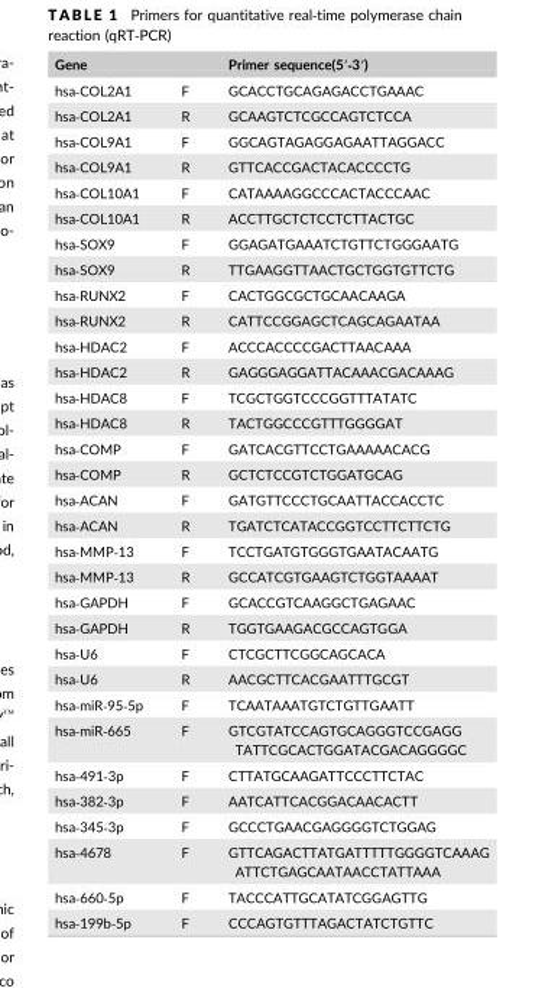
<table><thead><tr><td>Gene</td><td></td><td>Primer sequence(5′‐3′)</td></tr></thead><tbody><tr><td>hsa‐COL2A1</td><td>F</td><td>GCACCTGCAGAGACCTGAAAC</td></tr><tr><td>hsa‐COL2A1</td><td>R</td><td>GCAAGTCTCGCCAGTCTCCA</td></tr><tr><td>hsa‐COL9A1</td><td>F</td><td>GGCAGTAGAGGAGAATTAGGACC</td></tr><tr><td>hsa‐COL9A1</td><td>R</td><td>GTTCACCGACTACACCCCTG</td></tr><tr><td>hsa‐COL10A1</td><td>F</td><td>CATAAAAGGCCCACTACCCAAC</td></tr><tr><td>hsa‐COL10A1</td><td>R</td><td>ACCTTGCTCTCCTCTTACTGC</td></tr><tr><td>hsa‐SOX9</td><td>F</td><td>GGAGATGAAATCTGTTCTGGGAATG</td></tr><tr><td>hsa‐SOX9</td><td>R</td><td>TTGAAGGTTAACTGCTGGTGTTCTG</td></tr><tr><td>hsa‐RUNX2</td><td>F</td><td>CACTGGCGCTGCAACAAGA</td></tr><tr><td>hsa‐RUNX2</td><td>R</td><td>CATTCCGGAGCTCAGCAGAATAA</td></tr><tr><td>hsa‐HDAC2</td><td>F</td><td>ACCCACCCCGACTTAACAAA</td></tr><tr><td>hsa‐HDAC2</td><td>R</td><td>GAGGGAGGATTACAAACGACAAAG</td></tr><tr><td>hsa‐HDAC8</td><td>F</td><td>TCGCTGGTCCCGGTTTATATC</td></tr><tr><td>hsa‐HDAC8</td><td>R</td><td>TACTGGCCCGTTTGGGGAT</td></tr><tr><td>hsa‐COMP</td><td>F</td><td>GATCACGTTCCTGAAAAACACG</td></tr><tr><td>hsa‐COMP</td><td>R</td><td>GCTCTCCGTCTGGATGCAG</td></tr><tr><td>hsa‐ACAN</td><td>F</td><td>GATGTTCCCTGCAATTACCACCTC</td></tr><tr><td>hsa‐ACAN</td><td>R</td><td>TGATCTCATACCGGTCCTTCTTCTG</td></tr><tr><td>hsa‐MMP‐13</td><td>F</td><td>TCCTGATGTGGGTGAATACAATG</td></tr><tr><td>hsa‐MMP‐13</td><td>R</td><td>GCCATCGTGAAGTCTGGTAAAAT</td></tr><tr><td>hsa‐GAPDH</td><td>F</td><td>GCACCGTCAAGGCTGAGAAC</td></tr><tr><td>hsa‐GAPDH</td><td>R</td><td>TGGTGAAGACGCCAGTGGA</td></tr><tr><td>hsa‐U6</td><td>F</td><td>CTCGCTTCGGCAGCACA</td></tr><tr><td>hsa‐U6</td><td>R</td><td>AACGCTTCACGAATTTGCGT</td></tr><tr><td>hsa‐miR‐95‐5p</td><td>F</td><td>TCAATAAATGTCTGTTGAATT</td></tr><tr><td>hsa‐miR‐665</td><td>F</td><td>GTCGTATCCAGTGCAGGGTCCGAGG TATTCGCACTGGATACGACAGGGGC</td></tr><tr><td>hsa‐491‐3p</td><td>F</td><td>CTTATGCAAGATTCCCTTCTAC</td></tr><tr><td>hsa‐382‐3p</td><td>F</td><td>AATCATTCACGGACAACACTT</td></tr><tr><td>hsa‐345‐3p</td><td>F</td><td>GCCCTGAACGAGGGGTCTGGAG</td></tr><tr><td>hsa‐4678</td><td>F</td><td>GTTCAGACTTATGATTTTTGGGGTCAAAG ATTCTGAGCAATAACCTATTAAA</td></tr><tr><td>hsa‐660‐5p</td><td>F</td><td>TACCCATTGCATATCGGAGTTG</td></tr><tr><td>hsa‐199b‐5p</td><td>F</td><td>CCCAGTGTTTAGACTATCTGTTC</td></tr></tbody></table>